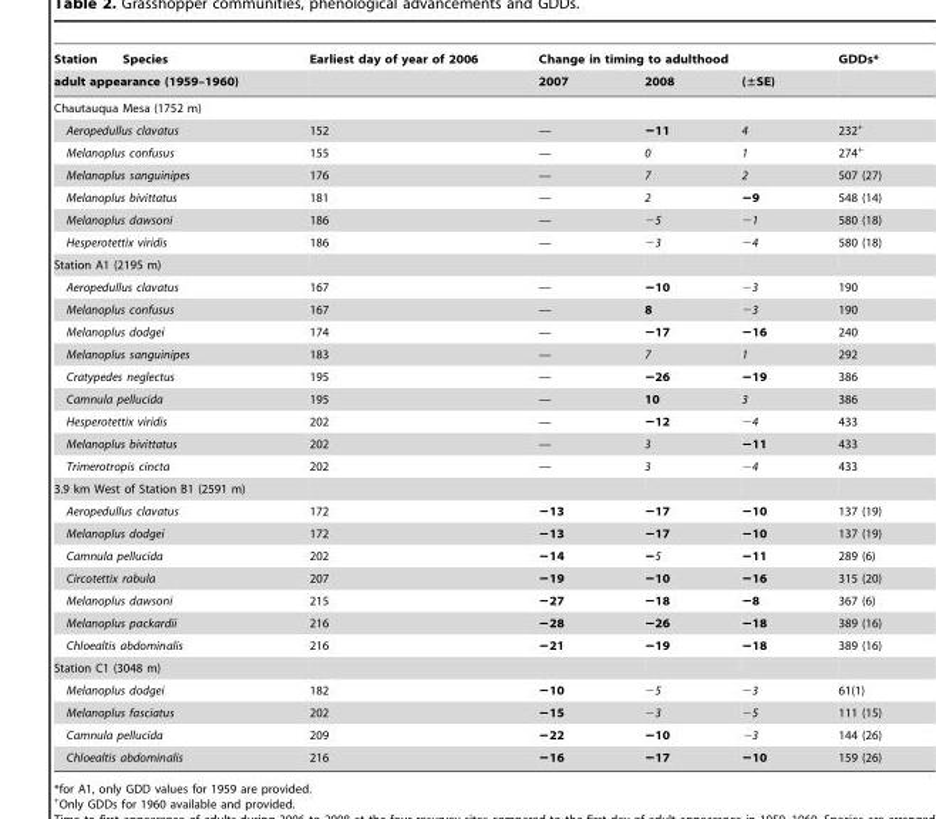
<table><thead><tr><td rowspan="2">Station Species adult appearance (1959–1960)</td><td rowspan="2">Earliest day of year of 2006</td><td colspan="3">Change in timing to adulthood</td><td rowspan="2">GDDs*</td></tr><tr><td>2007</td><td>2008</td><td>(±SE)</td></tr></thead><tbody><tr><td colspan="6">Chautauqua Mesa (1752 m)</td></tr><tr><td>Aeropedullus clavatus</td><td>152</td><td>—</td><td>−11</td><td>4</td><td>232+</td></tr><tr><td>Melanoplus confusus</td><td>155</td><td>—</td><td>0</td><td>1</td><td>274+</td></tr><tr><td>Melanoplus sanguinipes</td><td>176</td><td>—</td><td>7</td><td>2</td><td>507 (27)</td></tr><tr><td>Melanoplus bivittatus</td><td>181</td><td>—</td><td>2</td><td>−9</td><td>548 (14)</td></tr><tr><td>Melanoplus dawsoni</td><td>186</td><td>—</td><td>−5</td><td>−1</td><td>580 (18)</td></tr><tr><td>Hesperotettix viridis</td><td>186</td><td>—</td><td>−3</td><td>−4</td><td>580 (18)</td></tr><tr><td colspan="6">Station A1 (2195 m)</td></tr><tr><td>Aeropedullus clavatus</td><td>167</td><td>—</td><td>−10</td><td>−3</td><td>190</td></tr><tr><td>Melanoplus confusus</td><td>167</td><td>—</td><td>8</td><td>−3</td><td>190</td></tr><tr><td>Melanoplus dodgei</td><td>174</td><td>—</td><td>−17</td><td>−16</td><td>240</td></tr><tr><td>Melanoplus sanguinipes</td><td>183</td><td>—</td><td>7</td><td>1</td><td>292</td></tr><tr><td>Cratypedes neglectus</td><td>195</td><td>—</td><td>−26</td><td>−19</td><td>386</td></tr><tr><td>Camnula pellucida</td><td>195</td><td>—</td><td>10</td><td>3</td><td>386</td></tr><tr><td>Hesperotettix viridis</td><td>202</td><td>—</td><td>−12</td><td>−4</td><td>433</td></tr><tr><td>Melanoplus bivittatus</td><td>202</td><td>—</td><td>3</td><td>−11</td><td>433</td></tr><tr><td>Trimerotropis cincta</td><td>202</td><td>—</td><td>3</td><td>−4</td><td>433</td></tr><tr><td colspan="6">3.9 km West of Station B1 (2591 m)</td></tr><tr><td>Aeropedullus clavatus</td><td>172</td><td>−13</td><td>−17</td><td>−10</td><td>137 (19)</td></tr><tr><td>Melanoplus dodgei</td><td>172</td><td>−13</td><td>−17</td><td>−10</td><td>137 (19)</td></tr><tr><td>Camnula pellucida</td><td>202</td><td>−14</td><td>−5</td><td>−11</td><td>289 (6)</td></tr><tr><td>Circotettix rabula</td><td>207</td><td>−19</td><td>−10</td><td>−16</td><td>315 (20)</td></tr><tr><td>Melanoplus dawsoni</td><td>215</td><td>−27</td><td>−18</td><td>−8</td><td>367 (6)</td></tr><tr><td>Melanoplus packardii</td><td>216</td><td>−28</td><td>−26</td><td>−18</td><td>389 (16)</td></tr><tr><td>Chloealtis abdominalis</td><td>216</td><td>−21</td><td>−19</td><td>−18</td><td>389 (16)</td></tr><tr><td colspan="6">Station C1 (3048 m)</td></tr><tr><td>Melanoplus dodgei</td><td>182</td><td>−10</td><td>−5</td><td>−3</td><td>61(1)</td></tr><tr><td>Melanoplus fasciatus</td><td>202</td><td>−15</td><td>−3</td><td>−5</td><td>111 (15)</td></tr><tr><td>Camnula pellucida</td><td>209</td><td>−22</td><td>−10</td><td>−3</td><td>144 (26)</td></tr><tr><td>Chloealtis abdominalis</td><td>216</td><td>−16</td><td>−17</td><td>−10</td><td>159 (26)</td></tr></tbody></table>